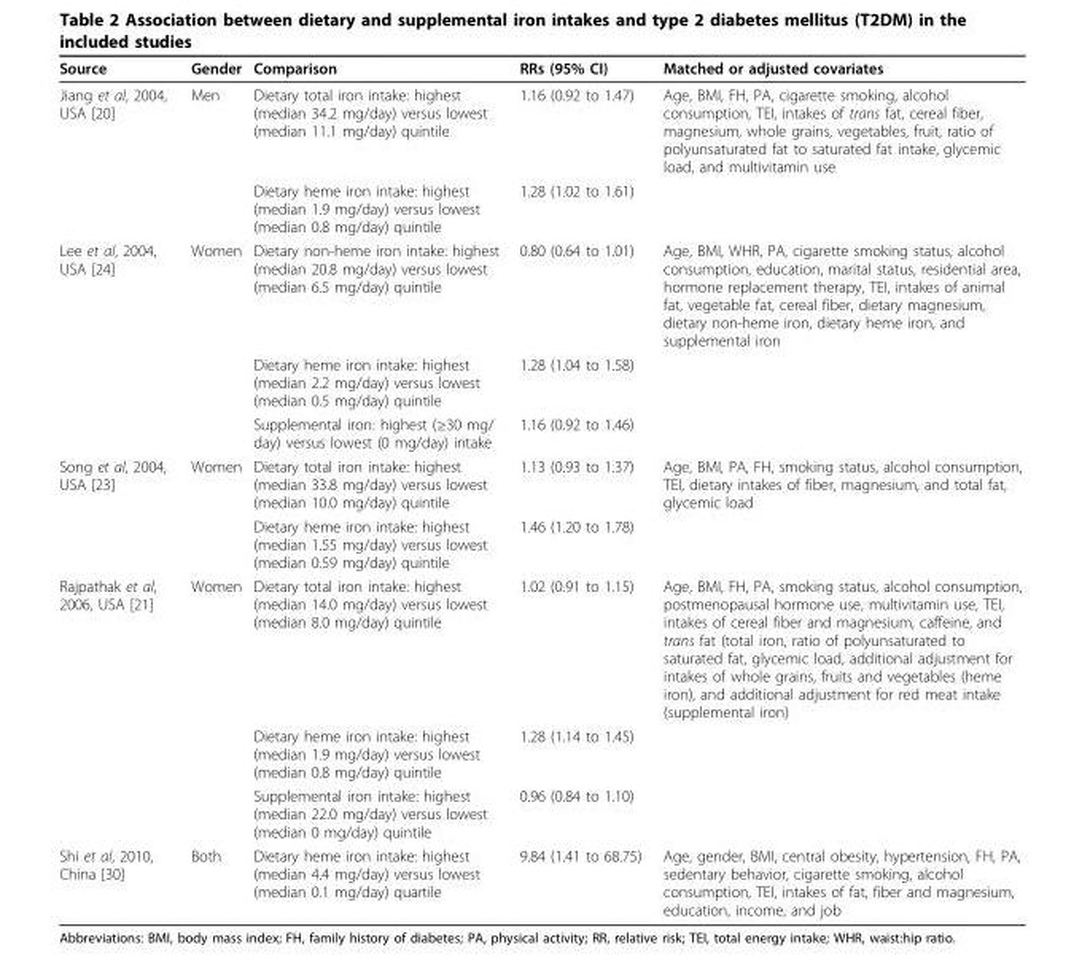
<table><thead><tr><td>Source</td><td>Gender</td><td>Comparison</td><td>RRs (95% CI)</td><td>Matched or adjusted covariates</td></tr></thead><tbody><tr><td rowspan="2">Jiang et al, 2004, USA [20]</td><td>Men</td><td>Dietary total iron intake: highest (median 34.2 mg/day) versus lowest (median 11.1 mg/day) quintile</td><td>1.16 (0.92 to 1.47)</td><td>Age, BMI, FH, PA, cigarette smoking, alcohol consumption, TEI, intakes of trans fat, cereal fiber, magnesium, whole grains, vegetables, fruit, ratio of polyunsaturated fat to saturated fat intake, glycemic load, and multivitamin use</td></tr><tr><td></td><td>Dietary heme iron intake: highest (median 1.9 mg/day) versus lowest (median 0.8 mg/day) quintile</td><td>1.28 (1.02 to 1.61)</td><td></td></tr><tr><td rowspan="3">Lee et al, 2004, USA [24]</td><td>Women</td><td>Dietary non-heme iron intake: highest (median 20.8 mg/day) versus lowest (median 6.5 mg/day) quintile</td><td>0.80 (0.64 to 1.01)</td><td>Age, BMI, WHR, PA, cigarette smoking status, alcohol consumption, education, marital status, residential area, hormone replacement therapy, TEI, intakes of animal fat, vegetable fat, cereal fiber, dietary magnesium, dietary non-heme iron, dietary heme iron, and supplemental iron</td></tr><tr><td></td><td>Dietary heme iron intake: highest (median 2.2 mg/day) versus lowest (median 0.5 mg/day) quintile</td><td>1.28 (1.04 to 1.58)</td><td></td></tr><tr><td></td><td>Supplemental iron: highest (≥30 mg/ day) versus lowest (0 mg/day) intake</td><td>1.16 (0.92 to 1.46)</td><td></td></tr><tr><td rowspan="2">Song et al, 2004, USA [23]</td><td>Women</td><td>Dietary total iron intake: highest (median 33.8 mg/day) versus lowest (median 10.0 mg/day) quintile</td><td>1.13 (0.93 to 1.37)</td><td>Age, BMI, PA, FH, smoking status, alcohol consumption, TEI, dietary intakes of fiber, magnesium, and total fat, glycemic load</td></tr><tr><td></td><td>Dietary heme iron intake: highest (median 1.55 mg/day) versus lowest (median 0.59 mg/day) quintile</td><td>1.46 (1.20 to 1.78)</td><td></td></tr><tr><td rowspan="3">Rajpathak et al, 2006, USA [21]</td><td>Women</td><td>Dietary total iron intake: highest (median 14.0 mg/day) versus lowest (median 8.0 mg/day) quintile</td><td>1.02 (0.91 to 1.15)</td><td>Age, BMI, FH, PA, smoking status, alcohol consumption, postmenopausal hormone use, multivitamin use, TEI, intakes of cereal fiber and magnesium, caffeine, and trans fat (total iron, ratio of polyunsaturated to saturated fat, glycemic load, additional adjustment for intakes of whole grains, fruits and vegetables (heme iron), and additional adjustment for red meat intake (supplemental iron)</td></tr><tr><td></td><td>Dietary heme iron intake: highest (median 1.9 mg/day) versus lowest (median 0.8 mg/day) quintile</td><td>1.28 (1.14 to 1.45)</td><td></td></tr><tr><td></td><td>Supplemental iron intake: highest (median 22.0 mg/day) versus lowest (median 0 mg/day) quintile</td><td>0.96 (0.84 to 1.10)</td><td></td></tr><tr><td>Shi et al, 2010, China [30]</td><td>Both</td><td>Dietary heme iron intake: highest (median 4.4 mg/day) versus lowest (median 0.1 mg/day) quartile</td><td>9.84 (1.41 to 68.75)</td><td>Age, gender, BMI, central obesity, hypertension, FH, PA, sedentary behavior, cigarette smoking, alcohol consumption, TEI, intakes of fat, fiber and magnesium, education, income, and job</td></tr></tbody></table>